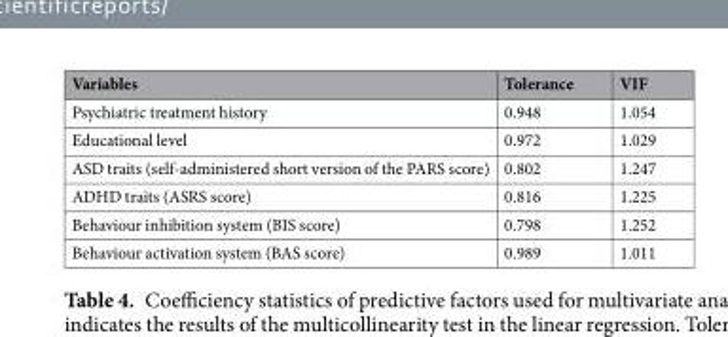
<table><thead><tr><td>Variables</td><td>Tolerance</td><td>VIF</td></tr></thead><tbody><tr><td>Psychiatric treatment history</td><td>0.948</td><td>1.054</td></tr><tr><td>Educational level</td><td>0.972</td><td>1.029</td></tr><tr><td>ASD traits (self-administered short version of the PARS score)</td><td>0.802</td><td>1.247</td></tr><tr><td>ADHD traits (ASRS score)</td><td>0.816</td><td>1.225</td></tr><tr><td>Behaviour inhibition system (BIS score)</td><td>0.798</td><td>1.252</td></tr><tr><td>Behaviour activation system (BAS score)</td><td>0.989</td><td>1.011</td></tr></tbody></table>